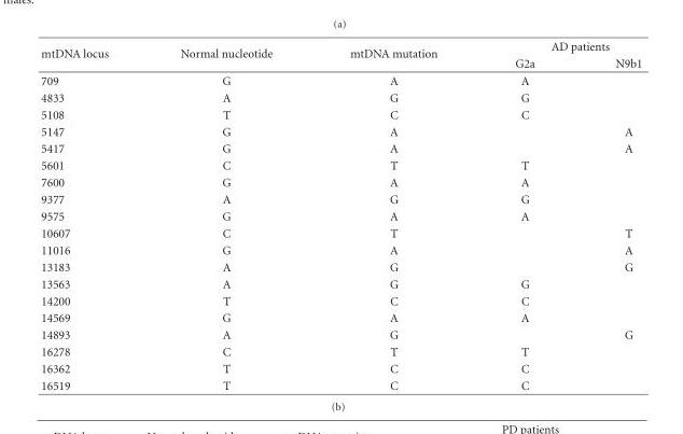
<table><thead><tr><td rowspan="2">mtDNA locus</td><td rowspan="2">Normal nucleotide</td><td rowspan="2">mtDNA mutation</td><td colspan="2">AD patients</td></tr><tr><td>G2a</td><td>N9b1</td></tr></thead><tbody><tr><td>709</td><td>G</td><td>A</td><td>A</td><td></td></tr><tr><td>4833</td><td>A</td><td>G</td><td>G</td><td></td></tr><tr><td>5108</td><td>T</td><td>C</td><td>C</td><td></td></tr><tr><td>5147</td><td>G</td><td>A</td><td></td><td>A</td></tr><tr><td>5417</td><td>G</td><td>A</td><td></td><td>A</td></tr><tr><td>5601</td><td>C</td><td>T</td><td>T</td><td></td></tr><tr><td>7600</td><td>G</td><td>A</td><td>A</td><td></td></tr><tr><td>9377</td><td>A</td><td>G</td><td>G</td><td></td></tr><tr><td>9575</td><td>G</td><td>A</td><td>A</td><td></td></tr><tr><td>10607</td><td>C</td><td>T</td><td></td><td>T</td></tr><tr><td>11016</td><td>G</td><td>A</td><td></td><td>A</td></tr><tr><td>13183</td><td>A</td><td>G</td><td></td><td>G</td></tr><tr><td>13563</td><td>A</td><td>G</td><td>G</td><td></td></tr><tr><td>14200</td><td>T</td><td>C</td><td>C</td><td></td></tr><tr><td>14569</td><td>G</td><td>A</td><td>A</td><td></td></tr><tr><td>14893</td><td>A</td><td>G</td><td></td><td>G</td></tr><tr><td>16278</td><td>C</td><td>T</td><td>T</td><td></td></tr><tr><td>16362</td><td>T</td><td>C</td><td>C</td><td></td></tr><tr><td>16519</td><td>T</td><td>C</td><td>C</td><td></td></tr></tbody></table>